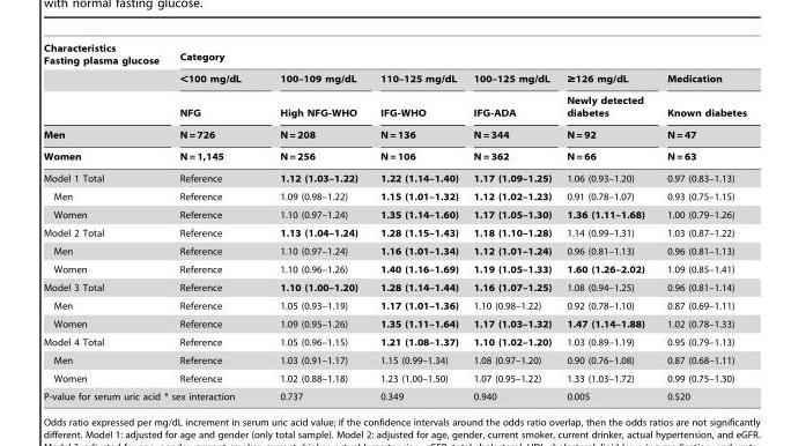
<table><thead><tr><td rowspan="5">Characteristics Fasting plasma glucose Men Women</td><td colspan="6">Category</td></tr><tr><td rowspan="4">&lt;100 mg/dL NFG N = 726 N = 1,145</td><td rowspan="4">100–109 mg/dL High NFG-WHO N = 208 N = 256</td><td rowspan="4">110–125 mg/dL IFG-WHO N = 136 N = 106</td><td rowspan="4">100–125 mg/dL IFG-ADA N = 344 N = 362</td><td rowspan="4">≥126 mg/dL Newly detected diabetes N = 92 N = 66</td><td rowspan="4">Medication Known diabetes N = 47 N = 63</td></tr><tr></tr><tr></tr><tr></tr></thead><tbody><tr><td>Model 1 Total</td><td>Reference</td><td>1.12 (1.03–1.22)</td><td>1.22 (1.14–1.40)</td><td>1.17 (1.09–1.25)</td><td>1.06 (0.93–1.20)</td><td>0.97 (0.83–1.13)</td></tr><tr><td>Men</td><td>Reference</td><td>1.09 (0.98–1.22)</td><td>1.15 (1.01–1.32)</td><td>1.12 (1.02–1.23)</td><td>0.91 (0.78–1.07)</td><td>0.93 (0.75–1.15)</td></tr><tr><td>Women</td><td>Reference</td><td>1.10 (0.97–1.24)</td><td>1.35 (1.14–1.60)</td><td>1.17 (1.05–1.30)</td><td>1.36 (1.11–1.68)</td><td>1.00 (0.79–1.26)</td></tr><tr><td>Model 2 Total</td><td>Reference</td><td>1.13 (1.04–1.24)</td><td>1.28 (1.15–1.43)</td><td>1.18 (1.10–1.28)</td><td>1.14 (0.99–1.31)</td><td>1.03 (0.87–1.22)</td></tr><tr><td>Men</td><td>Reference</td><td>1.10 (0.97–1.24)</td><td>1.16 (1.01–1.34)</td><td>1.12 (1.01–1.24)</td><td>0.96 (0.81–1.13)</td><td>0.96 (0.81–1.13)</td></tr><tr><td>Women</td><td>Reference</td><td>1.10 (0.96–1.26)</td><td>1.40 (1.16–1.69)</td><td>1.19 (1.05–1.33)</td><td>1.60 (1.26–2.02)</td><td>1.09 (0.85–1.41)</td></tr><tr><td>Model 3 Total</td><td>Reference</td><td>1.10 (1.00–1.20)</td><td>1.28 (1.14–1.44)</td><td>1.16 (1.07–1.25)</td><td>1.08 (0.94–1.25)</td><td>0.96 (0.81–1.14)</td></tr><tr><td>Men</td><td>Reference</td><td>1.05 (0.93–1.19)</td><td>1.17 (1.01–1.36)</td><td>1.10 (0.98–1.22)</td><td>0.92 (0.78–1.10)</td><td>0.87 (0.69–1.11)</td></tr><tr><td>Women</td><td>Reference</td><td>1.09 (0.95–1.26)</td><td>1.35 (1.11–1.64)</td><td>1.17 (1.03–1.32)</td><td>1.47 (1.14–1.88)</td><td>1.02 (0.78–1.33)</td></tr><tr><td>Model 4 Total</td><td>Reference</td><td>1.05 (0.96–1.15)</td><td>1.21 (1.08–1.37)</td><td>1.10 (1.02–1.20)</td><td>1.03 (0.89–1.19)</td><td>0.95 (0.79–1.13)</td></tr><tr><td>Men</td><td>Reference</td><td>1.03 (0.91–1.17)</td><td>1.15 (0.99–1.34)</td><td>1.08 (0.97–1.20)</td><td>0.90 (0.76–1.08)</td><td>0.87 (0.68–1.11)</td></tr><tr><td>Women</td><td>Reference</td><td>1.02 (0.88–1.18)</td><td>1.23 (1.00–1.50)</td><td>1.07 (0.95–1.22)</td><td>1.33 (1.03–1.72)</td><td>0.99 (0.75–1.30)</td></tr><tr><td colspan="2">P-value for serum uric acid * sex interaction</td><td>0.737</td><td>0.349</td><td>0.940</td><td>0.005</td><td>0.520</td></tr></tbody></table>